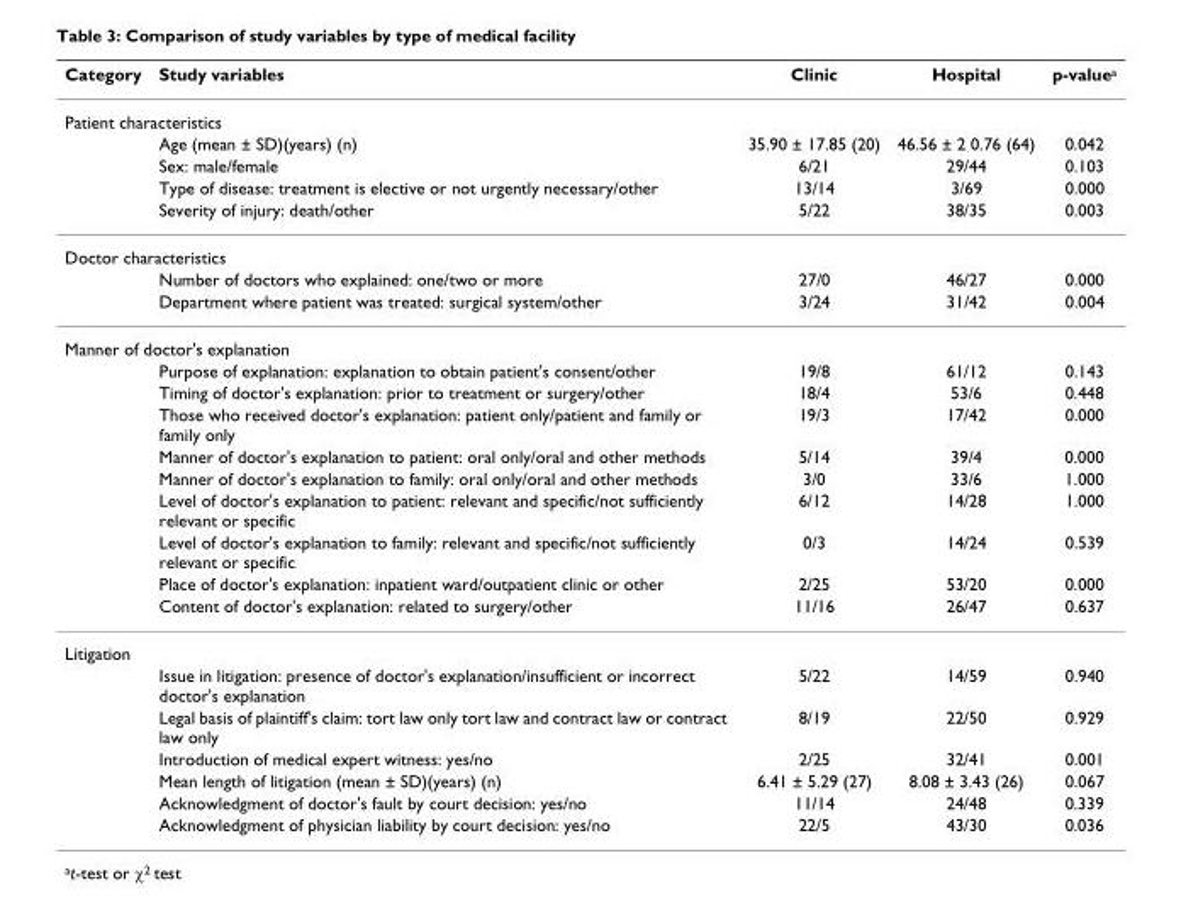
<table><thead><tr><td>Category</td><td>Study variables</td><td>Clinic</td><td>Hospital</td><td>p-value<sup>a</sup></td></tr></thead><tbody><tr><td colspan="5">Patient characteristics</td></tr><tr><td></td><td>Age (mean ± SD)(years) (n)</td><td>35.90 ± 17.85 (20)</td><td>46.56 ± 2 0.76 (64)</td><td>0.042</td></tr><tr><td></td><td>Sex: male/female</td><td>6/21</td><td>29/44</td><td>0.103</td></tr><tr><td></td><td>Type of disease: treatment is elective or not urgently necessary/other</td><td>13/14</td><td>3/69</td><td>0.000</td></tr><tr><td></td><td>Severity of injury: death/other</td><td>5/22</td><td>38/35</td><td>0.003</td></tr><tr><td colspan="5">Doctor characteristics</td></tr><tr><td></td><td>Number of doctors who explained: one/two or more</td><td>27/0</td><td>46/27</td><td>0.000</td></tr><tr><td></td><td>Department where patient was treated: surgical system/other</td><td>3/24</td><td>31/42</td><td>0.004</td></tr><tr><td colspan="5">Manner of doctor&#x27;s explanation</td></tr><tr><td></td><td>Purpose of explanation: explanation to obtain patient&#x27;s consent/other</td><td>19/8</td><td>61/12</td><td>0.143</td></tr><tr><td></td><td>Timing of doctor&#x27;s explanation: prior to treatment or surgery/other</td><td>18/4</td><td>53/6</td><td>0.448</td></tr><tr><td></td><td>Those who received doctor&#x27;s explanation: patient only/patient and family or family only</td><td>19/3</td><td>17/42</td><td>0.000</td></tr><tr><td></td><td>Manner of doctor&#x27;s explanation to patient: oral only/oral and other methods</td><td>5/14</td><td>39/4</td><td>0.000</td></tr><tr><td></td><td>Manner of doctor&#x27;s explanation to family: oral only/oral and other methods</td><td>3/0</td><td>33/6</td><td>1.000</td></tr><tr><td></td><td>Level of doctor&#x27;s explanation to patient: relevant and specific/not sufficiently relevant or specific</td><td>6/12</td><td>14/28</td><td>1.000</td></tr><tr><td></td><td>Level of doctor&#x27;s explanation to family: relevant and specific/not sufficiently relevant or specific</td><td>0/3</td><td>14/24</td><td>0.539</td></tr><tr><td></td><td>Place of doctor&#x27;s explanation: inpatient ward/outpatient clinic or other</td><td>2/25</td><td>53/20</td><td>0.000</td></tr><tr><td></td><td>Content of doctor&#x27;s explanation: related to surgery/other</td><td>11/16</td><td>26/47</td><td>0.637</td></tr><tr><td colspan="5">Litigation</td></tr><tr><td></td><td>Issue in litigation: presence of doctor&#x27;s explanation/insufficient or incorrect doctor&#x27;s explanation</td><td>5/22</td><td>14/59</td><td>0.940</td></tr><tr><td></td><td>Legal basis of plaintiff&#x27;s claim: tort law only tort law and contract law or contract law only</td><td>8/19</td><td>22/50</td><td>0.929</td></tr><tr><td></td><td>Introduction of medical expert witness: yes/no</td><td>2/25</td><td>32/41</td><td>0.001</td></tr><tr><td></td><td>Mean length of litigation (mean ± SD)(years) (n)</td><td>6.41 ± 5.29 (27)</td><td>8.08 ± 3.43 (26)</td><td>0.067</td></tr><tr><td></td><td>Acknowledgment of doctor&#x27;s fault by court decision: yes/no</td><td>11/14</td><td>24/48</td><td>0.339</td></tr><tr><td></td><td>Acknowledgment of physician liability by court decision: yes/no</td><td>22/5</td><td>43/30</td><td>0.036</td></tr></tbody></table>